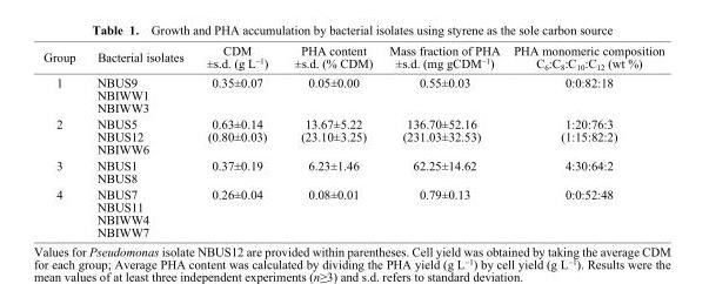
<table><thead><tr><td>Group</td><td>Bacterial isolates</td><td>CDM ±s.d. (g L<sup>−1</sup>)</td><td>PHA content ±s.d. (% CDM)</td><td>Mass fraction of PHA ±s.d. (mg gCDM<sup>−1</sup>)</td><td>PHA monomeric composition C<sub>6</sub>:C<sub>8</sub>:C<sub>10</sub>:C<sub>12</sub> (wt %)</td></tr></thead><tbody><tr><td>1</td><td>NBUS9 NBIWW1 NBIWW3</td><td>0.35±0.07</td><td>0.05±0.00</td><td>0.55±0.03</td><td>0:0:82:18</td></tr><tr><td>2</td><td>NBUS5 NBUS12 NBIWW6</td><td>0.63±0.14 (0.80±0.03)</td><td>13.67±5.22 (23.10±3.25)</td><td>136.70±52.16 (231.03±32.53)</td><td>1:20:76:3 (1:15:82:2)</td></tr><tr><td>3</td><td>NBUS1 NBUS8</td><td>0.37±0.19</td><td>6.23±1.46</td><td>62.25±14.62</td><td>4:30:64:2</td></tr><tr><td>4</td><td>NBUS7 NBUS11 NBIWW4 NBIWW7</td><td>0.26±0.04</td><td>0.08±0.01</td><td>0.79±0.13</td><td>0:0:52:48</td></tr></tbody></table>